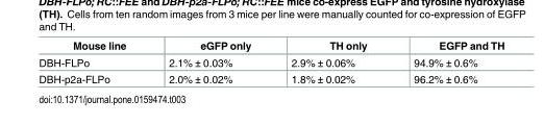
<table><thead><tr><td>Mouse line</td><td>eGFP only</td><td>TH only</td><td>EGFP and TH</td></tr></thead><tbody><tr><td>DBH-FLPo</td><td>2.1% ± 0.03%</td><td>2.9% ± 0.06%</td><td>94.9% ± 0.6%</td></tr><tr><td>DBH-p2a-FLPo</td><td>2.0% ± 0.02%</td><td>1.8% ± 0.02%</td><td>96.2% ± 0.6%</td></tr></tbody></table>